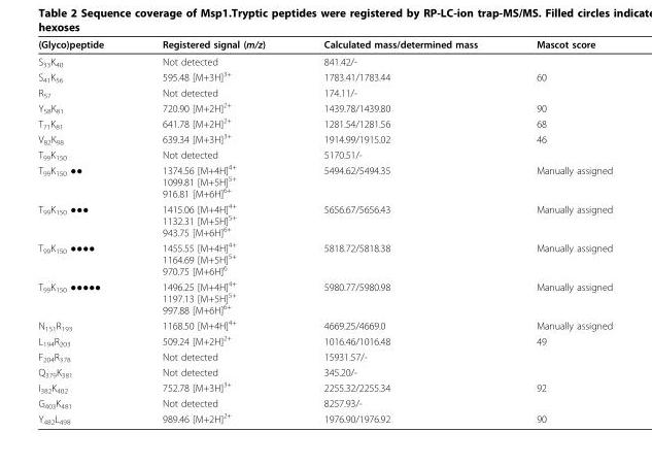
<table><thead><tr><td>(Glyco)peptide</td><td>Registered signal (m/z)</td><td>Calculated mass/determined mass</td><td>Mascot score</td></tr></thead><tbody><tr><td>S<sub>33</sub>K<sub>40</sub></td><td>Not detected</td><td>841.42/-</td><td></td></tr><tr><td>S<sub>41</sub>K<sub>56</sub></td><td>595.48 [M+3H]<sup>3+</sup></td><td>1783.41/1783.44</td><td>60</td></tr><tr><td>R<sub>57</sub></td><td>Not detected</td><td>174.11/-</td><td></td></tr><tr><td>Y<sub>58</sub>K<sub>81</sub></td><td>720.90 [M+2H]<sup>2+</sup></td><td>1439.78/1439.80</td><td>90</td></tr><tr><td>T<sub>71</sub>K<sub>81</sub></td><td>641.78 [M+2H]<sup>2+</sup></td><td>1281.54/1281.56</td><td>68</td></tr><tr><td>V<sub>82</sub>K<sub>98</sub></td><td>639.34 [M+3H]<sup>3+</sup></td><td>1914.99/1915.02</td><td>46</td></tr><tr><td>T<sub>99</sub>K<sub>150</sub></td><td>Not detected</td><td>5170.51/-</td><td></td></tr><tr><td>T<sub>99</sub>K<sub>150</sub> ●●</td><td>1374.56 [M+4H]<sup>4+</sup> 1099.81 [M+5H]<sup>5+</sup> 916.81 [M+6H]<sup>6+</sup></td><td>5494.62/5494.35</td><td>Manually assigned</td></tr><tr><td>T<sub>99</sub>K<sub>150</sub> ●●●</td><td>1415.06 [M+4H]<sup>4+</sup> 1132.31 [M+5H]<sup>5+</sup> 943.75 [M+6H]<sup>6+</sup></td><td>5656.67/5656.43</td><td>Manually assigned</td></tr><tr><td>T<sub>99</sub>K<sub>150</sub> ●●●●</td><td>1455.55 [M+4H]<sup>4+</sup> 1164.69 [M+5H]<sup>5+</sup> 970.75 [M+6H]<sup>6</sup></td><td>5818.72/5818.38</td><td>Manually assigned</td></tr><tr><td>T<sub>99</sub>K<sub>150</sub> ●●●●●</td><td>1496.25 [M+4H]<sup>4+</sup> 1197.13 [M+5H]<sup>5+</sup> 997.88 [M+6H]<sup>6+</sup></td><td>5980.77/5980.98</td><td>Manually assigned</td></tr><tr><td>N<sub>151</sub>R<sub>193</sub></td><td>1168.50 [M+4H]<sup>4+</sup></td><td>4669.25/4669.0</td><td>Manually assigned</td></tr><tr><td>L<sub>194</sub>R<sub>203</sub></td><td>509.24 [M+2H]<sup>2+</sup></td><td>1016.46/1016.48</td><td>49</td></tr><tr><td>F<sub>204</sub>R<sub>378</sub></td><td>Not detected</td><td>15931.57/-</td><td></td></tr><tr><td>Q<sub>379</sub>K<sub>381</sub></td><td>Not detected</td><td>345.20/-</td><td></td></tr><tr><td>I<sub>382</sub>K<sub>402</sub></td><td>752.78 [M+3H]<sup>3+</sup></td><td>2255.32/2255.34</td><td>92</td></tr><tr><td>G<sub>403</sub>K<sub>481</sub></td><td>Not detected</td><td>8257.93/-</td><td></td></tr><tr><td>Y<sub>482</sub>L<sub>498</sub></td><td>989.46 [M+2H]<sup>2+</sup></td><td>1976.90/1976.92</td><td>90</td></tr></tbody></table>